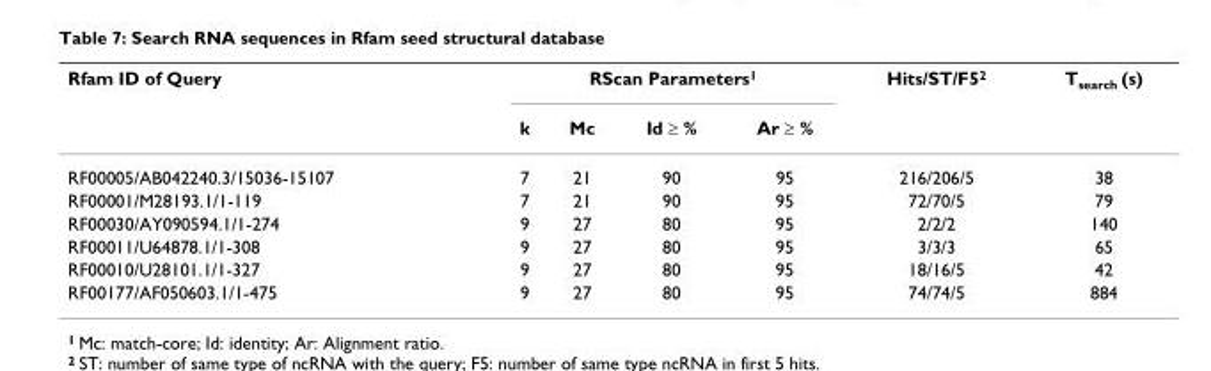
<table><thead><tr><td rowspan="2">Rfam ID of Query</td><td colspan="4">RScan Parameters<sup>1</sup></td><td rowspan="2">Hits/ST/F5<sup>2</sup></td><td rowspan="2">T<sub>search</sub> (s)</td></tr><tr><td>k</td><td>Mc</td><td>Id ≥ %</td><td>Ar ≥ %</td></tr></thead><tbody><tr><td>RF00005/AB042240.3/15036-15107</td><td>7</td><td>21</td><td>90</td><td>95</td><td>216/206/5</td><td>38</td></tr><tr><td>RF00001/M28193.1/1-119</td><td>7</td><td>21</td><td>90</td><td>95</td><td>72/70/5</td><td>79</td></tr><tr><td>RF00030/AY090594.1/1-274</td><td>9</td><td>27</td><td>80</td><td>95</td><td>2/2/2</td><td>140</td></tr><tr><td>RF00011/U64878.1/1-308</td><td>9</td><td>27</td><td>80</td><td>95</td><td>3/3/3</td><td>65</td></tr><tr><td>RF00010/U28101.1/1-327</td><td>9</td><td>27</td><td>80</td><td>95</td><td>18/16/5</td><td>42</td></tr><tr><td>RF00177/AF050603.1/1-475</td><td>9</td><td>27</td><td>80</td><td>95</td><td>74/74/5</td><td>884</td></tr></tbody></table>